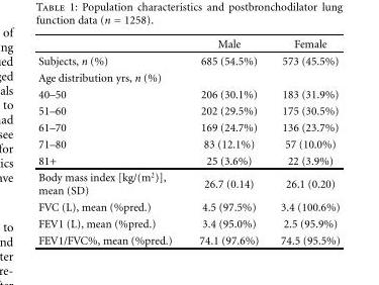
<table><thead><tr><td></td><td>Male</td><td>Female</td></tr></thead><tbody><tr><td>Subjects, n (%)</td><td>685 (54.5%)</td><td>573 (45.5%)</td></tr><tr><td colspan="3">Age distribution yrs, n (%)</td></tr><tr><td>40–50</td><td>206 (30.1%)</td><td>183 (31.9%)</td></tr><tr><td>51–60</td><td>202 (29.5%)</td><td>175 (30.5%)</td></tr><tr><td>61–70</td><td>169 (24.7%)</td><td>136 (23.7%)</td></tr><tr><td>71–80</td><td>83 (12.1%)</td><td>57 (10.0%)</td></tr><tr><td>81+</td><td>25 (3.6%)</td><td>22 (3.9%)</td></tr><tr><td>Body mass index [kg/(m<sup>2</sup>)], mean (SD)</td><td>26.7 (0.14)</td><td>26.1 (0.20)</td></tr><tr><td>FVC (L), mean (%pred.)</td><td>4.5 (97.5%)</td><td>3.4 (100.6%)</td></tr><tr><td>FEV1 (L), mean (%pred.)</td><td>3.4 (95.0%)</td><td>2.5 (95.9%)</td></tr><tr><td>FEV1/FVC%, mean (%pred.)</td><td>74.1 (97.6%)</td><td>74.5 (95.5%)</td></tr></tbody></table>